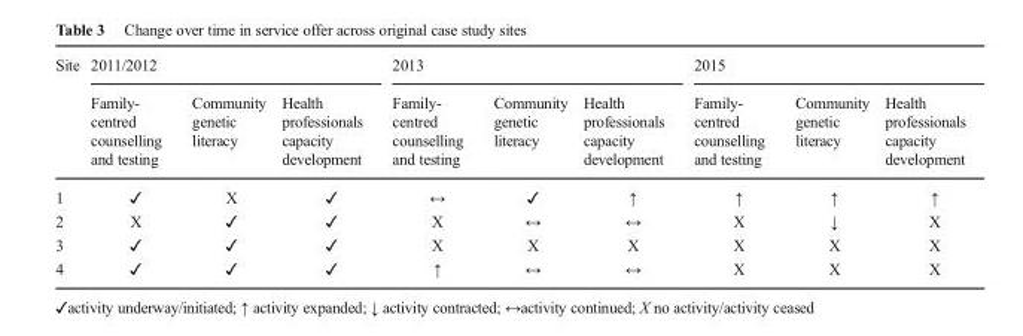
<table><thead><tr><td rowspan="2">Site</td><td colspan="3">2011/2012</td><td colspan="3">2013</td><td colspan="3">2015</td></tr><tr><td>Family- centred counselling and testing</td><td>Community genetic literacy</td><td>Health professionals capacity development</td><td>Family- centred counselling and testing</td><td>Community genetic literacy</td><td>Health professionals capacity development</td><td>Family- centred counselling and testing</td><td>Community genetic literacy</td><td>Health professionals capacity development</td></tr></thead><tbody><tr><td>1</td><td>✓</td><td>X</td><td>✓</td><td>↔</td><td>✓</td><td>↑</td><td>↑</td><td>↑</td><td>↑</td></tr><tr><td>2</td><td>X</td><td>✓</td><td>✓</td><td>X</td><td>↔</td><td>↔</td><td>X</td><td>↓</td><td>X</td></tr><tr><td>3</td><td>✓</td><td>✓</td><td>✓</td><td>X</td><td>X</td><td>X</td><td>X</td><td>X</td><td>X</td></tr><tr><td>4</td><td>✓</td><td>✓</td><td>✓</td><td>↑</td><td>↔</td><td>↔</td><td>X</td><td>X</td><td>X</td></tr></tbody></table>